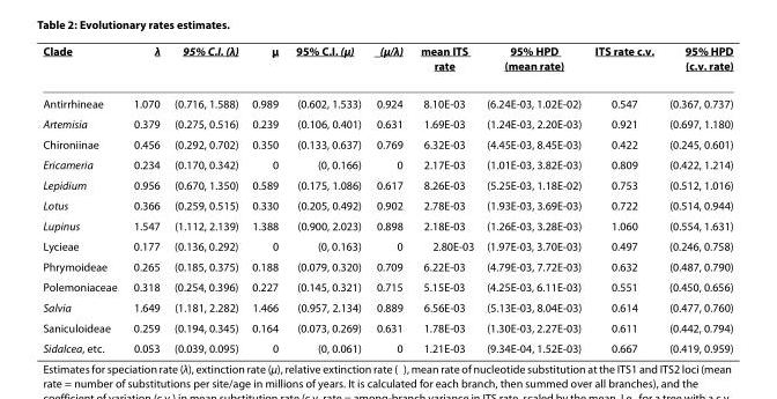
<table><thead><tr><td>Clade</td><td>λ</td><td>95% C.I. (λ)</td><td>μ</td><td>95% C.I. (μ)</td><td>∑(μ/λ)</td><td>mean ITS rate</td><td>95% HPD (mean rate)</td><td>ITS rate c.v.</td><td>95% HPD (c.v. rate)</td></tr></thead><tbody><tr><td>Antirrhineae</td><td>1.070</td><td>(0.716, 1.588)</td><td>0.989</td><td>(0.602, 1.533)</td><td>0.924</td><td>8.10E-03</td><td>(6.24E-03, 1.02E-02)</td><td>0.547</td><td>(0.367, 0.737)</td></tr><tr><td>Artemisia</td><td>0.379</td><td>(0.275, 0.516)</td><td>0.239</td><td>(0.106, 0.401)</td><td>0.631</td><td>1.69E-03</td><td>(1.24E-03, 2.20E-03)</td><td>0.921</td><td>(0.697, 1.180)</td></tr><tr><td>Chironiinae</td><td>0.456</td><td>(0.292, 0.702)</td><td>0.350</td><td>(0.133, 0.637)</td><td>0.769</td><td>6.32E-03</td><td>(4.45E-03, 8.45E-03)</td><td>0.422</td><td>(0.245, 0.601)</td></tr><tr><td>Ericameria</td><td>0.234</td><td>(0.170, 0.342)</td><td>0</td><td>(0, 0.166)</td><td>0</td><td>2.17E-03</td><td>(1.01E-03, 3.82E-03)</td><td>0.809</td><td>(0.422, 1.214)</td></tr><tr><td>Lepidium</td><td>0.956</td><td>(0.670, 1.350)</td><td>0.589</td><td>(0.175, 1.086)</td><td>0.617</td><td>8.26E-03</td><td>(5.25E-03, 1.18E-02)</td><td>0.753</td><td>(0.512, 1.016)</td></tr><tr><td>Lotus</td><td>0.366</td><td>(0.259, 0.515)</td><td>0.330</td><td>(0.205, 0.492)</td><td>0.902</td><td>2.78E-03</td><td>(1.93E-03, 3.69E-03)</td><td>0.722</td><td>(0.514, 0.944)</td></tr><tr><td>Lupinus</td><td>1.547</td><td>(1.112, 2.139)</td><td>1.388</td><td>(0.900, 2.023)</td><td>0.898</td><td>2.18E-03</td><td>(1.26E-03, 3.28E-03)</td><td>1.060</td><td>(0.554, 1.631)</td></tr><tr><td>Lycieae</td><td>0.177</td><td>(0.136, 0.292)</td><td>0</td><td>(0, 0.163)</td><td>0</td><td>2.80E-03</td><td>(1.97E-03, 3.70E-03)</td><td>0.497</td><td>(0.246, 0.758)</td></tr><tr><td>Phrymoideae</td><td>0.265</td><td>(0.185, 0.375)</td><td>0.188</td><td>(0.079, 0.320)</td><td>0.709</td><td>6.22E-03</td><td>(4.79E-03, 7.72E-03)</td><td>0.632</td><td>(0.487, 0.790)</td></tr><tr><td>Polemoniaceae</td><td>0.318</td><td>(0.254, 0.396)</td><td>0.227</td><td>(0.145, 0.321)</td><td>0.715</td><td>5.15E-03</td><td>(4.25E-03, 6.11E-03)</td><td>0.551</td><td>(0.450, 0.656)</td></tr><tr><td>Salvia</td><td>1.649</td><td>(1.181, 2.282)</td><td>1.466</td><td>(0.957, 2.134)</td><td>0.889</td><td>6.56E-03</td><td>(5.13E-03, 8.04E-03)</td><td>0.614</td><td>(0.477, 0.760)</td></tr><tr><td>Saniculoideae</td><td>0.259</td><td>(0.194, 0.345)</td><td>0.164</td><td>(0.073, 0.269)</td><td>0.631</td><td>1.78E-03</td><td>(1.30E-03, 2.27E-03)</td><td>0.611</td><td>(0.442, 0.794)</td></tr><tr><td>Sidalcea, etc.</td><td>0.053</td><td>(0.039, 0.095)</td><td>0</td><td>(0, 0.061)</td><td>0</td><td>1.21E-03</td><td>(9.34E-04, 1.52E-03)</td><td>0.667</td><td>(0.419, 0.959)</td></tr></tbody></table>